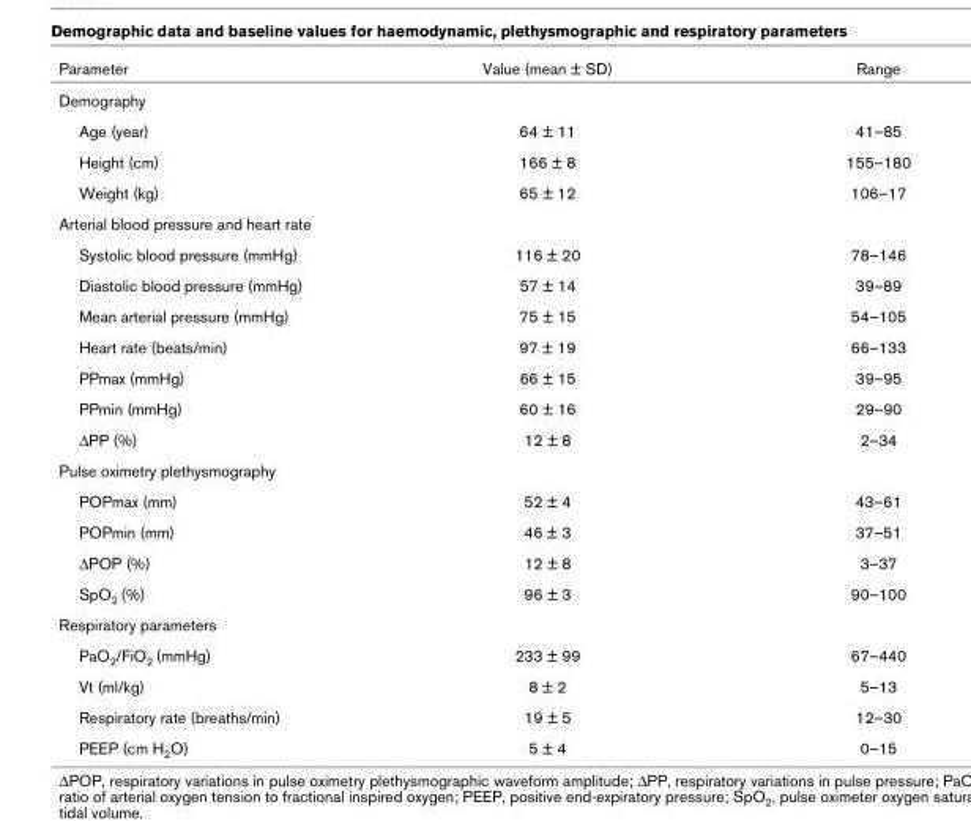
<table><thead><tr><td>Parameter</td><td>Value (mean ± SD)</td><td>Range</td></tr></thead><tbody><tr><td colspan="3">Demography</td></tr><tr><td>Age (year)</td><td>64 ± 11</td><td>41–85</td></tr><tr><td>Height (cm)</td><td>166 ± 8</td><td>155–180</td></tr><tr><td>Weight (kg)</td><td>65 ± 12</td><td>106–17</td></tr><tr><td colspan="3">Arterial blood pressure and heart rate</td></tr><tr><td>Systolic blood pressure (mmHg)</td><td>116 ± 20</td><td>78–146</td></tr><tr><td>Diastolic blood pressure (mmHg)</td><td>57 ± 14</td><td>39–89</td></tr><tr><td>Mean arterial pressure (mmHg)</td><td>75 ± 15</td><td>54–105</td></tr><tr><td>Heart rate (beats/min)</td><td>97 ± 19</td><td>66–133</td></tr><tr><td>PPmax (mmHg)</td><td>66 ± 15</td><td>39–95</td></tr><tr><td>PPmin (mmHg)</td><td>60 ± 16</td><td>29–90</td></tr><tr><td>∆PP (%)</td><td>12 ± 8</td><td>2–34</td></tr><tr><td colspan="3">Pulse oximetry plethysmography</td></tr><tr><td>POPmax (mm)</td><td>52 ± 4</td><td>43–61</td></tr><tr><td>POPmin (mm)</td><td>46 ± 3</td><td>37–51</td></tr><tr><td>∆POP (%)</td><td>12 ± 8</td><td>3–37</td></tr><tr><td>SpO2 (%)</td><td>96 ± 3</td><td>90–100</td></tr><tr><td colspan="3">Respiratory parameters</td></tr><tr><td>PaO2/FiO2 (mmHg)</td><td>233 ± 99</td><td>67–440</td></tr><tr><td>Vt (ml/kg)</td><td>8 ± 2</td><td>5–13</td></tr><tr><td>Respiratory rate (breaths/min)</td><td>19 ± 5</td><td>12–30</td></tr><tr><td>PEEP (cm H2O)</td><td>5 ± 4</td><td>0–15</td></tr></tbody></table>